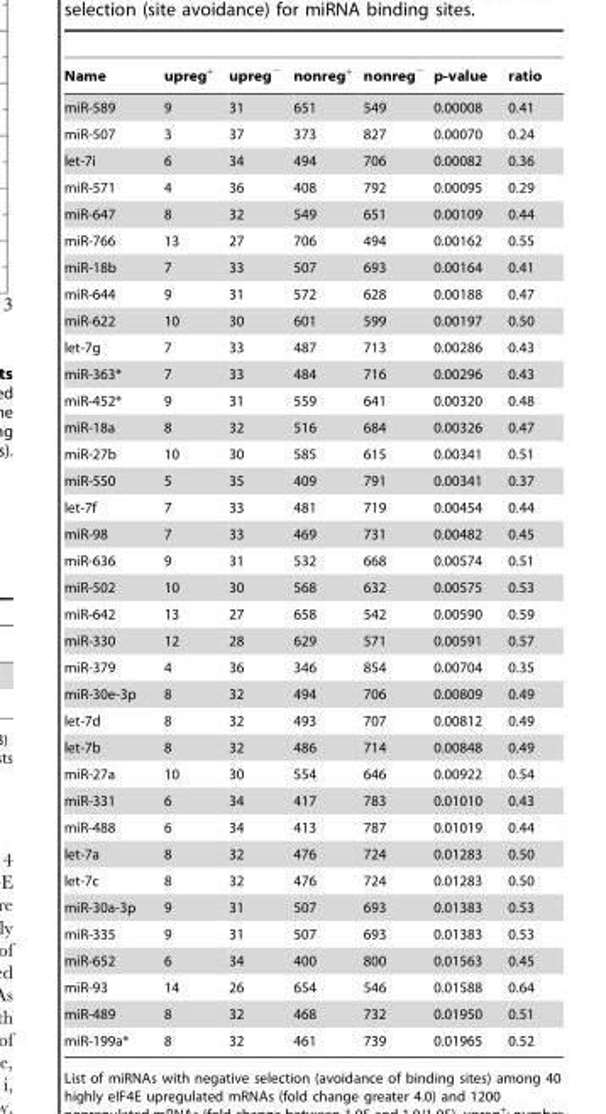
<table><thead><tr><td>Name</td><td>upreg<sup>+</sup></td><td>upreg<sup>−</sup></td><td>nonreg<sup>+</sup></td><td>nonreg<sup>−</sup></td><td>p-value</td><td>ratio</td></tr></thead><tbody><tr><td>miR-589</td><td>9</td><td>31</td><td>651</td><td>549</td><td>0.00008</td><td>0.41</td></tr><tr><td>miR-507</td><td>3</td><td>37</td><td>373</td><td>827</td><td>0.00070</td><td>0.24</td></tr><tr><td>let-7i</td><td>6</td><td>34</td><td>494</td><td>706</td><td>0.00082</td><td>0.36</td></tr><tr><td>miR-571</td><td>4</td><td>36</td><td>408</td><td>792</td><td>0.00095</td><td>0.29</td></tr><tr><td>miR-647</td><td>8</td><td>32</td><td>549</td><td>651</td><td>0.00109</td><td>0.44</td></tr><tr><td>miR-766</td><td>13</td><td>27</td><td>706</td><td>494</td><td>0.00162</td><td>0.55</td></tr><tr><td>miR-18b</td><td>7</td><td>33</td><td>507</td><td>693</td><td>0.00164</td><td>0.41</td></tr><tr><td>miR-644</td><td>9</td><td>31</td><td>572</td><td>628</td><td>0.00188</td><td>0.47</td></tr><tr><td>miR-622</td><td>10</td><td>30</td><td>601</td><td>599</td><td>0.00197</td><td>0.50</td></tr><tr><td>let-7g</td><td>7</td><td>33</td><td>487</td><td>713</td><td>0.00286</td><td>0.43</td></tr><tr><td>miR-363*</td><td>7</td><td>33</td><td>484</td><td>716</td><td>0.00296</td><td>0.43</td></tr><tr><td>miR-452*</td><td>9</td><td>31</td><td>559</td><td>641</td><td>0.00320</td><td>0.48</td></tr><tr><td>miR-18a</td><td>8</td><td>32</td><td>516</td><td>684</td><td>0.00326</td><td>0.47</td></tr><tr><td>miR-27b</td><td>10</td><td>30</td><td>585</td><td>615</td><td>0.00341</td><td>0.51</td></tr><tr><td>miR-550</td><td>5</td><td>35</td><td>409</td><td>791</td><td>0.00341</td><td>0.37</td></tr><tr><td>let-7f</td><td>7</td><td>33</td><td>481</td><td>719</td><td>0.00454</td><td>0.44</td></tr><tr><td>miR-98</td><td>7</td><td>33</td><td>469</td><td>731</td><td>0.00482</td><td>0.45</td></tr><tr><td>miR-636</td><td>9</td><td>31</td><td>532</td><td>668</td><td>0.00574</td><td>0.51</td></tr><tr><td>miR-502</td><td>10</td><td>30</td><td>568</td><td>632</td><td>0.00575</td><td>0.53</td></tr><tr><td>miR-642</td><td>13</td><td>27</td><td>658</td><td>542</td><td>0.00590</td><td>0.59</td></tr><tr><td>miR-330</td><td>12</td><td>28</td><td>629</td><td>571</td><td>0.00591</td><td>0.57</td></tr><tr><td>miR-379</td><td>4</td><td>36</td><td>346</td><td>854</td><td>0.00704</td><td>0.35</td></tr><tr><td>miR-30e-3p</td><td>8</td><td>32</td><td>494</td><td>706</td><td>0.00809</td><td>0.49</td></tr><tr><td>let-7d</td><td>8</td><td>32</td><td>493</td><td>707</td><td>0.00812</td><td>0.49</td></tr><tr><td>let-7b</td><td>8</td><td>32</td><td>486</td><td>714</td><td>0.00848</td><td>0.49</td></tr><tr><td>miR-27a</td><td>10</td><td>30</td><td>554</td><td>646</td><td>0.00922</td><td>0.54</td></tr><tr><td>miR-331</td><td>6</td><td>34</td><td>417</td><td>783</td><td>0.01010</td><td>0.43</td></tr><tr><td>miR-488</td><td>6</td><td>34</td><td>413</td><td>787</td><td>0.01019</td><td>0.44</td></tr><tr><td>let-7a</td><td>8</td><td>32</td><td>476</td><td>724</td><td>0.01283</td><td>0.50</td></tr><tr><td>let-7c</td><td>8</td><td>32</td><td>476</td><td>724</td><td>0.01283</td><td>0.50</td></tr><tr><td>miR-30a-3p</td><td>9</td><td>31</td><td>507</td><td>693</td><td>0.01383</td><td>0.53</td></tr><tr><td>miR-335</td><td>9</td><td>31</td><td>507</td><td>693</td><td>0.01383</td><td>0.53</td></tr><tr><td>miR-652</td><td>6</td><td>34</td><td>400</td><td>800</td><td>0.01563</td><td>0.45</td></tr><tr><td>miR-93</td><td>14</td><td>26</td><td>654</td><td>546</td><td>0.01588</td><td>0.64</td></tr><tr><td>miR-489</td><td>8</td><td>32</td><td>468</td><td>732</td><td>0.01950</td><td>0.51</td></tr><tr><td>miR-199a*</td><td>8</td><td>32</td><td>461</td><td>739</td><td>0.01965</td><td>0.52</td></tr></tbody></table>